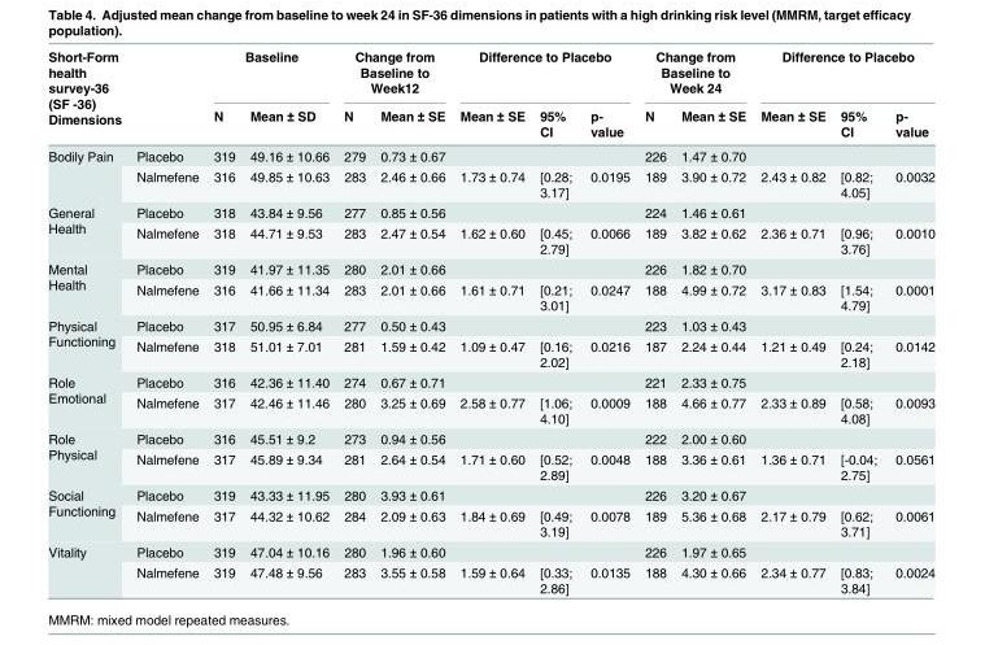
<table><thead><tr><td rowspan="2">Short-Form health survey-36 (SF -36) Dimensions</td><td rowspan="2"></td><td colspan="2">Baseline</td><td colspan="2">Change from Baseline to Week12</td><td colspan="3">Difference to Placebo</td><td colspan="2">Change from Baseline to Week 24</td><td colspan="3">Difference to Placebo</td></tr><tr><td>N</td><td>Mean ± SD</td><td>N</td><td>Mean ± SE</td><td>Mean ± SE</td><td>95% CI</td><td>p- value</td><td>N</td><td>Mean ± SE</td><td>Mean ± SE</td><td>95% CI</td><td>p- value</td></tr></thead><tbody><tr><td rowspan="2">Bodily Pain</td><td>Placebo</td><td>319</td><td>49.16 ± 10.66</td><td>279</td><td>0.73 ± 0.67</td><td></td><td></td><td></td><td>226</td><td>1.47 ± 0.70</td><td></td><td></td><td></td></tr><tr><td>Nalmefene</td><td>316</td><td>49.85 ± 10.63</td><td>283</td><td>2.46 ± 0.66</td><td>1.73 ± 0.74</td><td>[0.28; 3.17]</td><td>0.0195</td><td>189</td><td>3.90 ± 0.72</td><td>2.43 ± 0.82</td><td>[0.82; 4.05]</td><td>0.0032</td></tr><tr><td rowspan="2">General Health</td><td>Placebo</td><td>318</td><td>43.84 ± 9.56</td><td>277</td><td>0.85 ± 0.56</td><td></td><td></td><td></td><td>224</td><td>1.46 ± 0.61</td><td></td><td></td><td></td></tr><tr><td>Nalmefene</td><td>318</td><td>44.71 ± 9.53</td><td>283</td><td>2.47 ± 0.54</td><td>1.62 ± 0.60</td><td>[0.45; 2.79]</td><td>0.0066</td><td>189</td><td>3.82 ± 0.62</td><td>2.36 ± 0.71</td><td>[0.96; 3.76]</td><td>0.0010</td></tr><tr><td rowspan="2">Mental Health</td><td>Placebo</td><td>319</td><td>41.97 ± 11.35</td><td>280</td><td>2.01 ± 0.66</td><td></td><td></td><td></td><td>226</td><td>1.82 ± 0.70</td><td></td><td></td><td></td></tr><tr><td>Nalmefene</td><td>316</td><td>41.66 ± 11.34</td><td>283</td><td>2.01 ± 0.66</td><td>1.61 ± 0.71</td><td>[0.21; 3.01]</td><td>0.0247</td><td>188</td><td>4.99 ± 0.72</td><td>3.17 ± 0.83</td><td>[1.54; 4.79]</td><td>0.0001</td></tr><tr><td rowspan="2">Physical Functioning</td><td>Placebo</td><td>317</td><td>50.95 ± 6.84</td><td>277</td><td>0.50 ± 0.43</td><td></td><td></td><td></td><td>223</td><td>1.03 ± 0.43</td><td></td><td></td><td></td></tr><tr><td>Nalmefene</td><td>318</td><td>51.01 ± 7.01</td><td>281</td><td>1.59 ± 0.42</td><td>1.09 ± 0.47</td><td>[0.16; 2.02]</td><td>0.0216</td><td>187</td><td>2.24 ± 0.44</td><td>1.21 ± 0.49</td><td>[0.24; 2.18]</td><td>0.0142</td></tr><tr><td rowspan="2">Role Emotional</td><td>Placebo</td><td>316</td><td>42.36 ± 11.40</td><td>274</td><td>0.67 ± 0.71</td><td></td><td></td><td></td><td>221</td><td>2.33 ± 0.75</td><td></td><td></td><td></td></tr><tr><td>Nalmefene</td><td>317</td><td>42.46 ± 11.46</td><td>280</td><td>3.25 ± 0.69</td><td>2.58 ± 0.77</td><td>[1.06; 4.10]</td><td>0.0009</td><td>188</td><td>4.66 ± 0.77</td><td>2.33 ± 0.89</td><td>[0.58; 4.08]</td><td>0.0093</td></tr><tr><td rowspan="2">Role Physical</td><td>Placebo</td><td>316</td><td>45.51 ± 9.2</td><td>273</td><td>0.94 ± 0.56</td><td></td><td></td><td></td><td>222</td><td>2.00 ± 0.60</td><td></td><td></td><td></td></tr><tr><td>Nalmefene</td><td>317</td><td>45.89 ± 9.34</td><td>281</td><td>2.64 ± 0.54</td><td>1.71 ± 0.60</td><td>[0.52; 2.89]</td><td>0.0048</td><td>188</td><td>3.36 ± 0.61</td><td>1.36 ± 0.71</td><td>[-0.04; 2.75]</td><td>0.0561</td></tr><tr><td rowspan="2">Social Functioning</td><td>Placebo</td><td>319</td><td>43.33 ± 11.95</td><td>280</td><td>3.93 ± 0.61</td><td></td><td></td><td></td><td>226</td><td>3.20 ± 0.67</td><td></td><td></td><td></td></tr><tr><td>Nalmefene</td><td>317</td><td>44.32 ± 10.62</td><td>284</td><td>2.09 ± 0.63</td><td>1.84 ± 0.69</td><td>[0.49; 3.19]</td><td>0.0078</td><td>189</td><td>5.36 ± 0.68</td><td>2.17 ± 0.79</td><td>[0.62; 3.71]</td><td>0.0061</td></tr><tr><td rowspan="2">Vitality</td><td>Placebo</td><td>319</td><td>47.04 ± 10.16</td><td>280</td><td>1.96 ± 0.60</td><td></td><td></td><td></td><td>226</td><td>1.97 ± 0.65</td><td></td><td></td><td></td></tr><tr><td>Nalmefene</td><td>319</td><td>47.48 ± 9.56</td><td>283</td><td>3.55 ± 0.58</td><td>1.59 ± 0.64</td><td>[0.33; 2.86]</td><td>0.0135</td><td>188</td><td>4.30 ± 0.66</td><td>2.34 ± 0.77</td><td>[0.83; 3.84]</td><td>0.0024</td></tr></tbody></table>